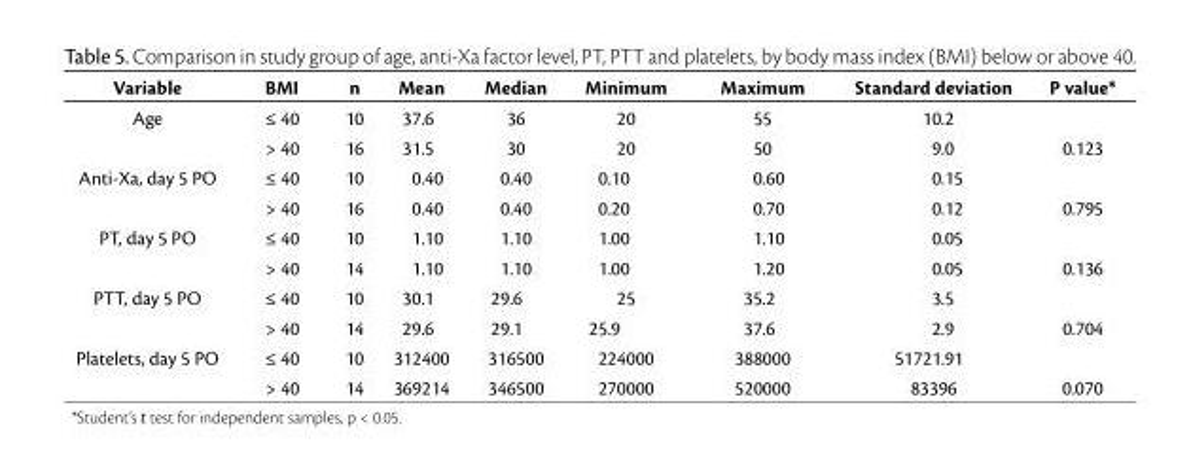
<table><thead><tr><td>Variable</td><td>BMI</td><td>n</td><td>Mean</td><td>Median</td><td>Minimum</td><td>Maximum</td><td>Standard deviation</td><td>P value*</td></tr></thead><tbody><tr><td rowspan="2">Age</td><td>≤ 40</td><td>10</td><td>37.6</td><td>36</td><td>20</td><td>55</td><td>10.2</td><td></td></tr><tr><td>&gt; 40</td><td>16</td><td>31.5</td><td>30</td><td>20</td><td>50</td><td>9.0</td><td>0.123</td></tr><tr><td rowspan="2">Anti-Xa, day 5 PO</td><td>≤ 40</td><td>10</td><td>0.40</td><td>0.40</td><td>0.10</td><td>0.60</td><td>0.15</td><td></td></tr><tr><td>&gt; 40</td><td>16</td><td>0.40</td><td>0.40</td><td>0.20</td><td>0.70</td><td>0.12</td><td>0.795</td></tr><tr><td rowspan="2">PT, day 5 PO</td><td>≤ 40</td><td>10</td><td>1.10</td><td>1.10</td><td>1.00</td><td>1.10</td><td>0.05</td><td></td></tr><tr><td>&gt; 40</td><td>14</td><td>1.10</td><td>1.10</td><td>1.00</td><td>1.20</td><td>0.05</td><td>0.136</td></tr><tr><td rowspan="2">PTT, day 5 PO</td><td>≤ 40</td><td>10</td><td>30.1</td><td>29.6</td><td>25</td><td>35.2</td><td>3.5</td><td></td></tr><tr><td>&gt; 40</td><td>14</td><td>29.6</td><td>29.1</td><td>25.9</td><td>37.6</td><td>2.9</td><td>0.704</td></tr><tr><td rowspan="2">Platelets, day 5 PO</td><td>≤ 40</td><td>10</td><td>312400</td><td>316500</td><td>224000</td><td>388000</td><td>51721.91</td><td></td></tr><tr><td>&gt; 40</td><td>14</td><td>369214</td><td>346500</td><td>270000</td><td>520000</td><td>83396</td><td>0.070</td></tr></tbody></table>